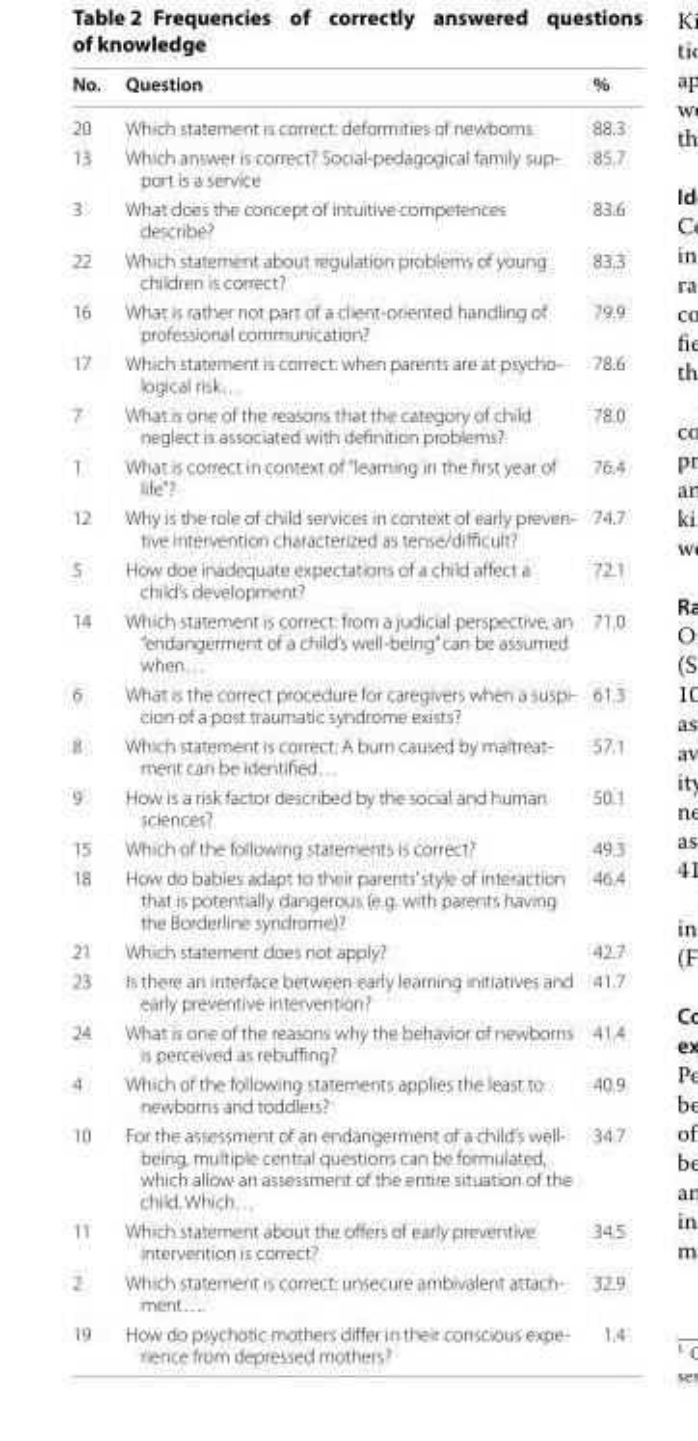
<table><thead><tr><td>No.</td><td>Question</td><td>%</td></tr></thead><tbody><tr><td>20</td><td>Which statement is correct: deformities of newborns</td><td>88.3</td></tr><tr><td>13</td><td>Which answer is correct? Social-pedagogical family sup- port is a service</td><td>85.7</td></tr><tr><td>3</td><td>What does the concept of intuitive competences describe?</td><td>83.6</td></tr><tr><td>22</td><td>Which statement about regulation problems of young children is correct?</td><td>83.3</td></tr><tr><td>16</td><td>What is rather not part of a client-oriented handling of professional communication?</td><td>79.9</td></tr><tr><td>17</td><td>Which statement is correct: when parents are at psycho- logical risk…</td><td>78.6</td></tr><tr><td>7</td><td>What is one of the reasons that the category of child neglect is associated with definition problems?</td><td>78.0</td></tr><tr><td>1</td><td>What is correct in context of ’’learning in the first year of life’’?</td><td>76.4</td></tr><tr><td>12</td><td>Why is the role of child services in context of early preven- tive intervention characterized as tense/difficult?</td><td>74.7</td></tr><tr><td>5</td><td>How doe inadequate expectations of a child affect a child’s development?</td><td>72.1</td></tr><tr><td>14</td><td>Which statement is correct: from a judicial perspective, an “endangerment of a child’s well-being” can be assumed when…</td><td>71.0</td></tr><tr><td>6</td><td>What is the correct procedure for caregivers when a suspi- cion of a post traumatic syndrome exists?</td><td>61.3</td></tr><tr><td>8</td><td>Which statement is correct: A burn caused by maltreat- ment can be identified…</td><td>57.1</td></tr><tr><td>9</td><td>How is a risk factor described by the social and human sciences?</td><td>50.1</td></tr><tr><td>15</td><td>Which of the following statements is correct?</td><td>49.3</td></tr><tr><td>18</td><td>How do babies adapt to their parents’ style of interaction that is potentially dangerous (e.g. with parents having the Borderline syndrome)?</td><td>46.4</td></tr><tr><td>21</td><td>Which statement does not apply?</td><td>42.7</td></tr><tr><td>23</td><td>Is there an interface between early learning initiatives and early preventive intervention?</td><td>41.7</td></tr><tr><td>24</td><td>What is one of the reasons why the behavior of newborns is perceived as rebuffing?</td><td>41.4</td></tr><tr><td>4</td><td>Which of the following statements applies the least to newborns and toddlers?</td><td>40.9</td></tr><tr><td>10</td><td>For the assessment of an endangerment of a child’s well- being, multiple central questions can be formulated, which allow an assessment of the entire situation of the child. Which…</td><td>34.7</td></tr><tr><td>11</td><td>Which statement about the offers of early preventive intervention is correct?</td><td>34.5</td></tr><tr><td>2</td><td>Which statement is correct: unsecure ambivalent attach- ment….</td><td>32.9</td></tr><tr><td>19</td><td>How do psychotic mothers differ in their conscious expe- rience from depressed mothers?</td><td>1.4</td></tr></tbody></table>